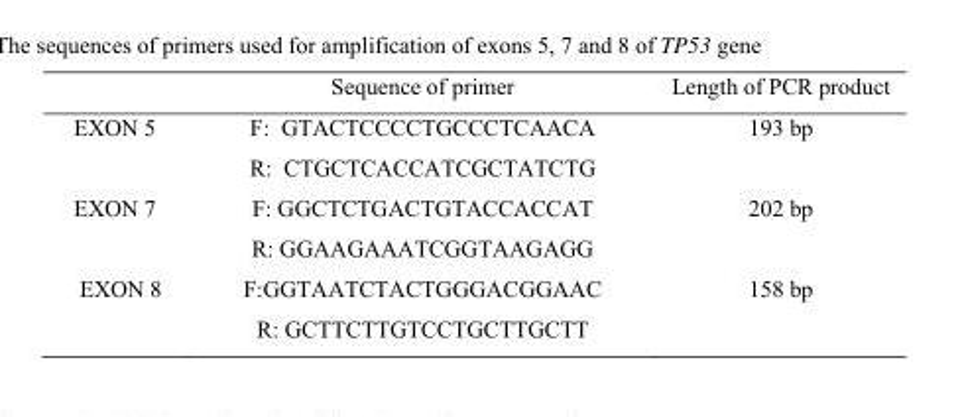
<table><thead><tr><td></td><td>Sequence of primer</td><td>Length of PCR product</td></tr></thead><tbody><tr><td>EXON 5</td><td>F: GTACTCCCCTGCCCTCAACA R: CTGCTCACCATCGCTATCTG</td><td>193 bp</td></tr><tr><td>EXON 7</td><td>F: GGCTCTGACTGTACCACCAT R: GGAAGAAATCGGTAAGAGG</td><td>202 bp</td></tr><tr><td>EXON 8</td><td>F:GGTAATCTACTGGGACGGAAC R: GCTTCTTGTCCTGCTTGCTT</td><td>158 bp</td></tr></tbody></table>